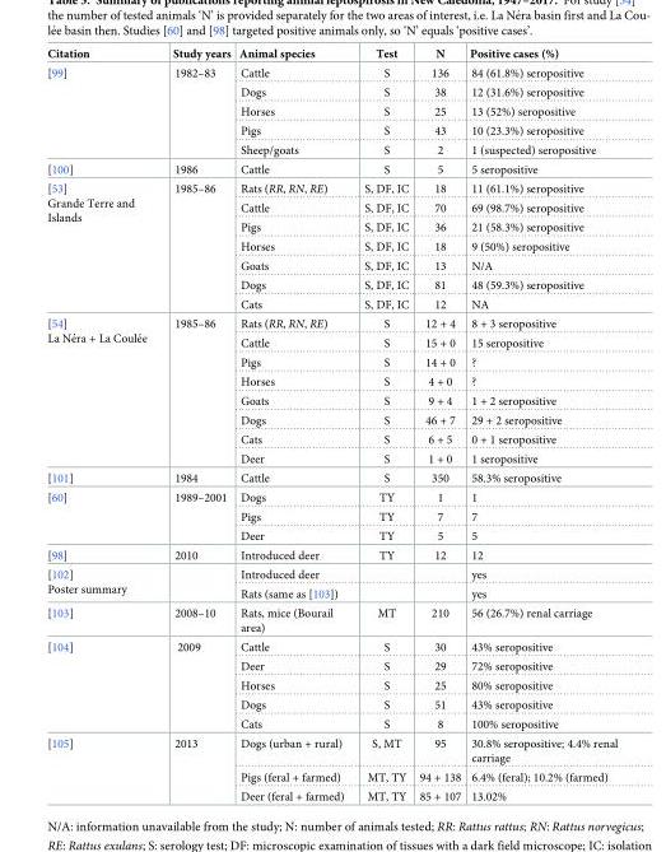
<table><thead><tr><td>Citation</td><td>Study years</td><td>Animal species</td><td>Test</td><td>N</td><td>Positive cases (%)</td></tr></thead><tbody><tr><td rowspan="5">[99]</td><td rowspan="5">1982–83</td><td>Cattle</td><td>S</td><td>136</td><td>84 (61.8%) seropositive</td></tr><tr><td>Dogs</td><td>S</td><td>38</td><td>12 (31.6%) seropositive</td></tr><tr><td>Horses</td><td>S</td><td>25</td><td>13 (52%) seropositive</td></tr><tr><td>Pigs</td><td>S</td><td>43</td><td>10 (23.3%) seropositive</td></tr><tr><td>Sheep/goats</td><td>S</td><td>2</td><td>1 (suspected) seropositive</td></tr><tr><td>[100]</td><td>1986</td><td>Cattle</td><td>S</td><td>5</td><td>5 seropositive</td></tr><tr><td rowspan="7">[53] Grande Terre and Islands</td><td rowspan="7">1985–86</td><td>Rats (RR, RN, RE)</td><td>S, DF, IC</td><td>18</td><td>11 (61.1%) seropositive</td></tr><tr><td>Cattle</td><td>S, DF, IC</td><td>70</td><td>69 (98.7%) seropositive</td></tr><tr><td>Pigs</td><td>S, DF, IC</td><td>36</td><td>21 (58.3%) seropositive</td></tr><tr><td>Horses</td><td>S, DF, IC</td><td>18</td><td>9 (50%) seropositive</td></tr><tr><td>Goats</td><td>S, DF, IC</td><td>13</td><td>N/A</td></tr><tr><td>Dogs</td><td>S, DF, IC</td><td>81</td><td>48 (59.3%) seropositive</td></tr><tr><td>Cats</td><td>S, DF, IC</td><td>12</td><td>NA</td></tr><tr><td rowspan="8">[54] La Ne´ra + La Coule´e</td><td rowspan="8">1985–86</td><td>Rats (RR, RN, RE)</td><td>S</td><td>12 + 4</td><td>8 + 3 seropositive</td></tr><tr><td>Cattle</td><td>S</td><td>15 + 0</td><td>15 seropositive</td></tr><tr><td>Pigs</td><td>S</td><td>14 + 0</td><td>?</td></tr><tr><td>Horses</td><td>S</td><td>4 + 0</td><td>?</td></tr><tr><td>Goats</td><td>S</td><td>9 + 4</td><td>1 + 2 seropositive</td></tr><tr><td>Dogs</td><td>S</td><td>46 + 7</td><td>29 + 2 seropositive</td></tr><tr><td>Cats</td><td>S</td><td>6 + 5</td><td>0 + 1 seropositive</td></tr><tr><td>Deer</td><td>S</td><td>1 + 0</td><td>1 seropositive</td></tr><tr><td>[101]</td><td>1984</td><td>Cattle</td><td>S</td><td>350</td><td>58.3% seropositive</td></tr><tr><td rowspan="3">[60]</td><td rowspan="3">1989–2001</td><td>Dogs</td><td>TY</td><td>1</td><td>1</td></tr><tr><td>Pigs</td><td>TY</td><td>7</td><td>7</td></tr><tr><td>Deer</td><td>TY</td><td>5</td><td>5</td></tr><tr><td>[98]</td><td>2010</td><td>Introduced deer</td><td>TY</td><td>12</td><td>12</td></tr><tr><td rowspan="2">[102] Poster summary</td><td rowspan="2"></td><td>Introduced deer</td><td></td><td></td><td>yes</td></tr><tr><td>Rats (same as [103])</td><td></td><td></td><td>yes</td></tr><tr><td>[103]</td><td>2008–10</td><td>Rats, mice (Bourail area)</td><td>MT</td><td>210</td><td>56 (26.7%) renal carriage</td></tr><tr><td rowspan="5">[104]</td><td rowspan="5">2009</td><td>Cattle</td><td>S</td><td>30</td><td>43% seropositive</td></tr><tr><td>Deer</td><td>S</td><td>29</td><td>72% seropositive</td></tr><tr><td>Horses</td><td>S</td><td>25</td><td>80% seropositive</td></tr><tr><td>Dogs</td><td>S</td><td>51</td><td>43% seropositive</td></tr><tr><td>Cats</td><td>S</td><td>8</td><td>100% seropositive</td></tr><tr><td rowspan="3">[105]</td><td rowspan="3">2013</td><td>Dogs (urban + rural)</td><td>S, MT</td><td>95</td><td>30.8% seropositive; 4.4% renal carriage</td></tr><tr><td>Pigs (feral + farmed)</td><td>MT, TY</td><td>94 + 138</td><td>6.4% (feral); 10.2% (farmed)</td></tr><tr><td>Deer (feral + farmed)</td><td>MT, TY</td><td>85 + 107</td><td>13.02%</td></tr></tbody></table>